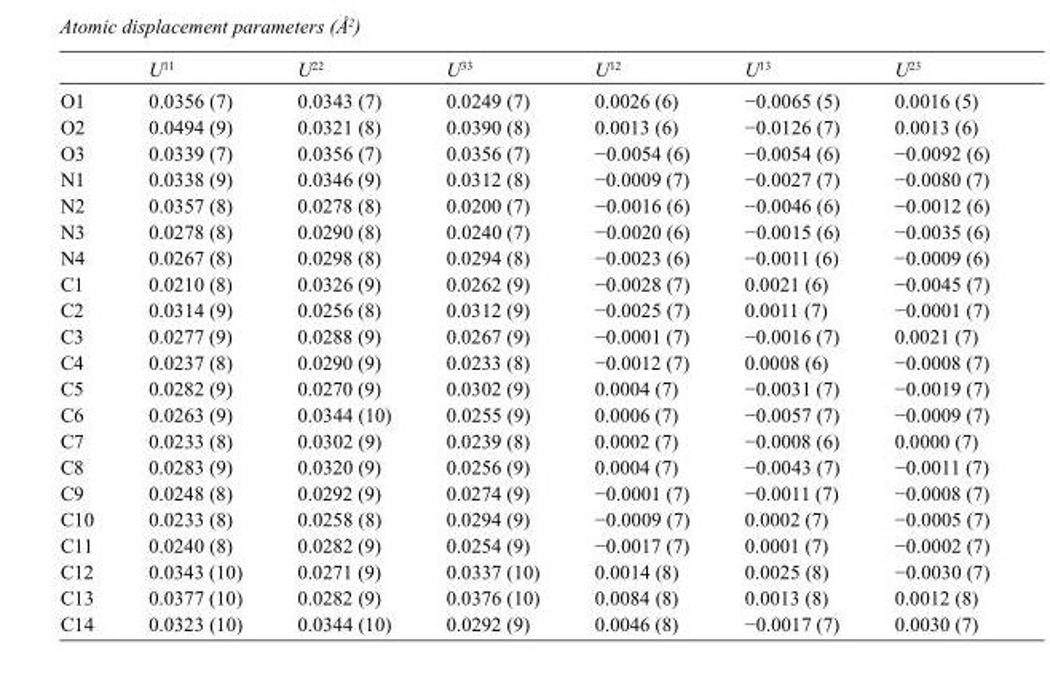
<table><thead><tr><td></td><td>U<sup>11</sup></td><td>U<sup>22</sup></td><td>U<sup>33</sup></td><td>U<sup>12</sup></td><td>U<sup>13</sup></td><td>U<sup>23</sup></td></tr></thead><tbody><tr><td>O1</td><td>0.0356 (7)</td><td>0.0343 (7)</td><td>0.0249 (7)</td><td>0.0026 (6)</td><td>−0.0065 (5)</td><td>0.0016 (5)</td></tr><tr><td>O2</td><td>0.0494 (9)</td><td>0.0321 (8)</td><td>0.0390 (8)</td><td>0.0013 (6)</td><td>−0.0126 (7)</td><td>0.0013 (6)</td></tr><tr><td>O3</td><td>0.0339 (7)</td><td>0.0356 (7)</td><td>0.0356 (7)</td><td>−0.0054 (6)</td><td>−0.0054 (6)</td><td>−0.0092 (6)</td></tr><tr><td>N1</td><td>0.0338 (9)</td><td>0.0346 (9)</td><td>0.0312 (8)</td><td>−0.0009 (7)</td><td>−0.0027 (7)</td><td>−0.0080 (7)</td></tr><tr><td>N2</td><td>0.0357 (8)</td><td>0.0278 (8)</td><td>0.0200 (7)</td><td>−0.0016 (6)</td><td>−0.0046 (6)</td><td>−0.0012 (6)</td></tr><tr><td>N3</td><td>0.0278 (8)</td><td>0.0290 (8)</td><td>0.0240 (7)</td><td>−0.0020 (6)</td><td>−0.0015 (6)</td><td>−0.0035 (6)</td></tr><tr><td>N4</td><td>0.0267 (8)</td><td>0.0298 (8)</td><td>0.0294 (8)</td><td>−0.0023 (6)</td><td>−0.0011 (6)</td><td>−0.0009 (6)</td></tr><tr><td>C1</td><td>0.0210 (8)</td><td>0.0326 (9)</td><td>0.0262 (9)</td><td>−0.0028 (7)</td><td>0.0021 (6)</td><td>−0.0045 (7)</td></tr><tr><td>C2</td><td>0.0314 (9)</td><td>0.0256 (8)</td><td>0.0312 (9)</td><td>−0.0025 (7)</td><td>0.0011 (7)</td><td>−0.0001 (7)</td></tr><tr><td>C3</td><td>0.0277 (9)</td><td>0.0288 (9)</td><td>0.0267 (9)</td><td>−0.0001 (7)</td><td>−0.0016 (7)</td><td>0.0021 (7)</td></tr><tr><td>C4</td><td>0.0237 (8)</td><td>0.0290 (9)</td><td>0.0233 (8)</td><td>−0.0012 (7)</td><td>0.0008 (6)</td><td>−0.0008 (7)</td></tr><tr><td>C5</td><td>0.0282 (9)</td><td>0.0270 (9)</td><td>0.0302 (9)</td><td>0.0004 (7)</td><td>−0.0031 (7)</td><td>−0.0019 (7)</td></tr><tr><td>C6</td><td>0.0263 (9)</td><td>0.0344 (10)</td><td>0.0255 (9)</td><td>0.0006 (7)</td><td>−0.0057 (7)</td><td>−0.0009 (7)</td></tr><tr><td>C7</td><td>0.0233 (8)</td><td>0.0302 (9)</td><td>0.0239 (8)</td><td>0.0002 (7)</td><td>−0.0008 (6)</td><td>0.0000 (7)</td></tr><tr><td>C8</td><td>0.0283 (9)</td><td>0.0320 (9)</td><td>0.0256 (9)</td><td>0.0004 (7)</td><td>−0.0043 (7)</td><td>−0.0011 (7)</td></tr><tr><td>C9</td><td>0.0248 (8)</td><td>0.0292 (9)</td><td>0.0274 (9)</td><td>−0.0001 (7)</td><td>−0.0011 (7)</td><td>−0.0008 (7)</td></tr><tr><td>C10</td><td>0.0233 (8)</td><td>0.0258 (8)</td><td>0.0294 (9)</td><td>−0.0009 (7)</td><td>0.0002 (7)</td><td>−0.0005 (7)</td></tr><tr><td>C11</td><td>0.0240 (8)</td><td>0.0282 (9)</td><td>0.0254 (9)</td><td>−0.0017 (7)</td><td>0.0001 (7)</td><td>−0.0002 (7)</td></tr><tr><td>C12</td><td>0.0343 (10)</td><td>0.0271 (9)</td><td>0.0337 (10)</td><td>0.0014 (8)</td><td>0.0025 (8)</td><td>−0.0030 (7)</td></tr><tr><td>C13</td><td>0.0377 (10)</td><td>0.0282 (9)</td><td>0.0376 (10)</td><td>0.0084 (8)</td><td>0.0013 (8)</td><td>0.0012 (8)</td></tr><tr><td>C14</td><td>0.0323 (10)</td><td>0.0344 (10)</td><td>0.0292 (9)</td><td>0.0046 (8)</td><td>−0.0017 (7)</td><td>0.0030 (7)</td></tr></tbody></table>